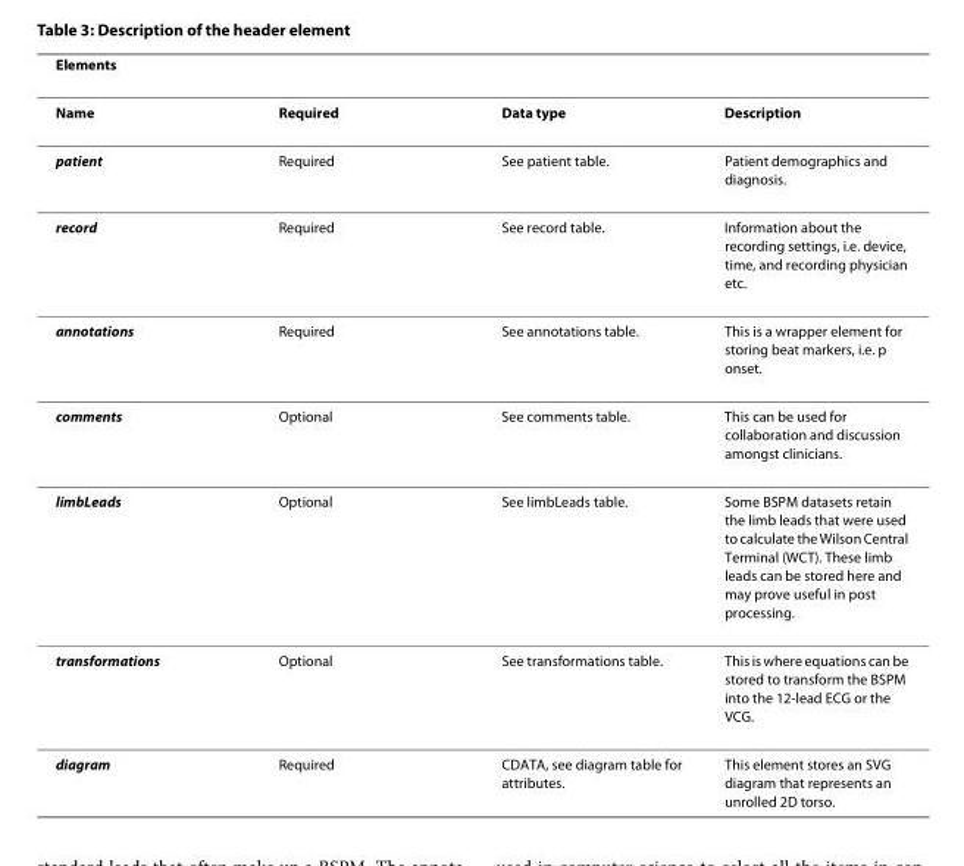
<table><thead><tr><td>Elements</td><td></td><td></td><td></td></tr></thead><tbody><tr><td>Name</td><td>Required</td><td>Data type</td><td>Description</td></tr><tr><td>patient</td><td>Required</td><td>See patient table.</td><td>Patient demographics and diagnosis.</td></tr><tr><td>record</td><td>Required</td><td>See record table.</td><td>Information about the recording settings, i.e. device, time, and recording physician etc.</td></tr><tr><td>annotations</td><td>Required</td><td>See annotations table.</td><td>This is a wrapper element for storing beat markers, i.e. p onset.</td></tr><tr><td>comments</td><td>Optional</td><td>See comments table.</td><td>This can be used for collaboration and discussion amongst clinicians.</td></tr><tr><td>limbLeads</td><td>Optional</td><td>See limbLeads table.</td><td>Some BSPM datasets retain the limb leads that were used to calculate the Wilson Central Terminal (WCT). These limb leads can be stored here and may prove useful in post processing.</td></tr><tr><td>transformations</td><td>Optional</td><td>See transformations table.</td><td>This is where equations can be stored to transform the BSPM into the 12-lead ECG or the VCG.</td></tr><tr><td>diagram</td><td>Required</td><td>CDATA, see diagram table for attributes.</td><td>This element stores an SVG diagram that represents an unrolled 2D torso.</td></tr></tbody></table>